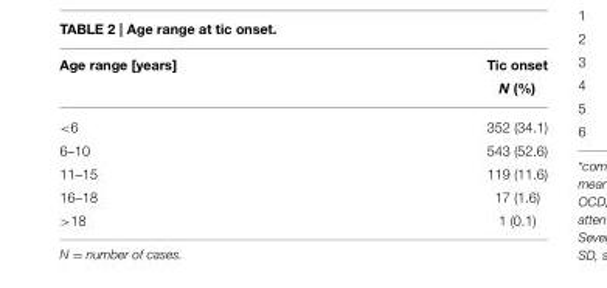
<table><thead><tr><td>Age range [years]</td><td>Tic onset N (%)</td></tr></thead><tbody><tr><td>&lt;6</td><td>352 (34.1)</td></tr><tr><td>6–10</td><td>543 (52.6)</td></tr><tr><td>11–15</td><td>119 (11.6)</td></tr><tr><td>16–18</td><td>17 (1.6)</td></tr><tr><td>&gt;18</td><td>1 (0.1)</td></tr></tbody></table>